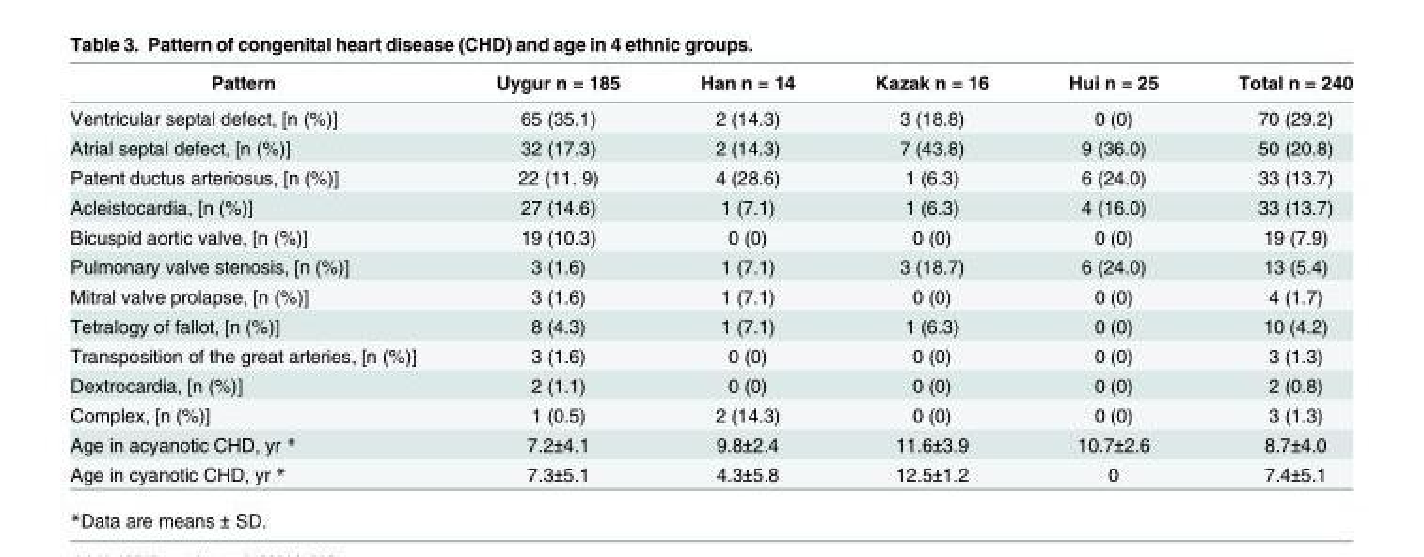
<table><thead><tr><td>Pattern</td><td>Uygur n = 185</td><td>Han n = 14</td><td>Kazak n = 16</td><td>Hui n = 25</td><td>Total n = 240</td></tr></thead><tbody><tr><td>Ventricular septal defect, [n (%)]</td><td>65 (35.1)</td><td>2 (14.3)</td><td>3 (18.8)</td><td>0 (0)</td><td>70 (29.2)</td></tr><tr><td>Atrial septal defect, [n (%)]</td><td>32 (17.3)</td><td>2 (14.3)</td><td>7 (43.8)</td><td>9 (36.0)</td><td>50 (20.8)</td></tr><tr><td>Patent ductus arteriosus, [n (%)]</td><td>22 (11. 9)</td><td>4 (28.6)</td><td>1 (6.3)</td><td>6 (24.0)</td><td>33 (13.7)</td></tr><tr><td>Acleistocardia, [n (%)]</td><td>27 (14.6)</td><td>1 (7.1)</td><td>1 (6.3)</td><td>4 (16.0)</td><td>33 (13.7)</td></tr><tr><td>Bicuspid aortic valve, [n (%)]</td><td>19 (10.3)</td><td>0 (0)</td><td>0 (0)</td><td>0 (0)</td><td>19 (7.9)</td></tr><tr><td>Pulmonary valve stenosis, [n (%)]</td><td>3 (1.6)</td><td>1 (7.1)</td><td>3 (18.7)</td><td>6 (24.0)</td><td>13 (5.4)</td></tr><tr><td>Mitral valve prolapse, [n (%)]</td><td>3 (1.6)</td><td>1 (7.1)</td><td>0 (0)</td><td>0 (0)</td><td>4 (1.7)</td></tr><tr><td>Tetralogy of fallot, [n (%)]</td><td>8 (4.3)</td><td>1 (7.1)</td><td>1 (6.3)</td><td>0 (0)</td><td>10 (4.2)</td></tr><tr><td>Transposition of the great arteries, [n (%)]</td><td>3 (1.6)</td><td>0 (0)</td><td>0 (0)</td><td>0 (0)</td><td>3 (1.3)</td></tr><tr><td>Dextrocardia, [n (%)]</td><td>2 (1.1)</td><td>0 (0)</td><td>0 (0)</td><td>0 (0)</td><td>2 (0.8)</td></tr><tr><td>Complex, [n (%)]</td><td>1 (0.5)</td><td>2 (14.3)</td><td>0 (0)</td><td>0 (0)</td><td>3 (1.3)</td></tr><tr><td>Age in acyanotic CHD, yr *</td><td>7.2±4.1</td><td>9.8±2.4</td><td>11.6±3.9</td><td>10.7±2.6</td><td>8.7±4.0</td></tr><tr><td>Age in cyanotic CHD, yr *</td><td>7.3±5.1</td><td>4.3±5.8</td><td>12.5±1.2</td><td>0</td><td>7.4±5.1</td></tr></tbody></table>